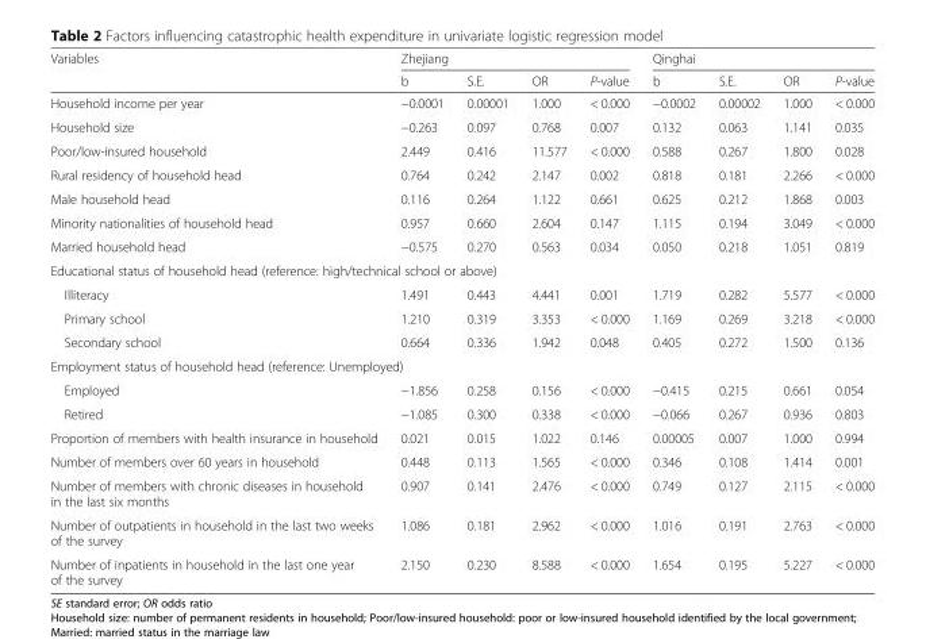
<table><thead><tr><td rowspan="2">Variables</td><td colspan="4">Zhejiang</td><td colspan="4">Qinghai</td></tr><tr><td>b</td><td>S.E.</td><td>OR</td><td>P-value</td><td>b</td><td>S.E.</td><td>OR</td><td>P-value</td></tr></thead><tbody><tr><td>Household income per year</td><td>−0.0001</td><td>0.00001</td><td>1.000</td><td>&lt; 0.000</td><td>−0.0002</td><td>0.00002</td><td>1.000</td><td>&lt; 0.000</td></tr><tr><td>Household size</td><td>−0.263</td><td>0.097</td><td>0.768</td><td>0.007</td><td>0.132</td><td>0.063</td><td>1.141</td><td>0.035</td></tr><tr><td>Poor/low-insured household</td><td>2.449</td><td>0.416</td><td>11.577</td><td>&lt; 0.000</td><td>0.588</td><td>0.267</td><td>1.800</td><td>0.028</td></tr><tr><td>Rural residency of household head</td><td>0.764</td><td>0.242</td><td>2.147</td><td>0.002</td><td>0.818</td><td>0.181</td><td>2.266</td><td>&lt; 0.000</td></tr><tr><td>Male household head</td><td>0.116</td><td>0.264</td><td>1.122</td><td>0.661</td><td>0.625</td><td>0.212</td><td>1.868</td><td>0.003</td></tr><tr><td>Minority nationalities of household head</td><td>0.957</td><td>0.660</td><td>2.604</td><td>0.147</td><td>1.115</td><td>0.194</td><td>3.049</td><td>&lt; 0.000</td></tr><tr><td>Married household head</td><td>−0.575</td><td>0.270</td><td>0.563</td><td>0.034</td><td>0.050</td><td>0.218</td><td>1.051</td><td>0.819</td></tr><tr><td colspan="9">Educational status of household head (reference: high/technical school or above)</td></tr><tr><td>Illiteracy</td><td>1.491</td><td>0.443</td><td>4.441</td><td>0.001</td><td>1.719</td><td>0.282</td><td>5.577</td><td>&lt; 0.000</td></tr><tr><td>Primary school</td><td>1.210</td><td>0.319</td><td>3.353</td><td>&lt; 0.000</td><td>1.169</td><td>0.269</td><td>3.218</td><td>&lt; 0.000</td></tr><tr><td>Secondary school</td><td>0.664</td><td>0.336</td><td>1.942</td><td>0.048</td><td>0.405</td><td>0.272</td><td>1.500</td><td>0.136</td></tr><tr><td colspan="9">Employment status of household head (reference: Unemployed)</td></tr><tr><td>Employed</td><td>−1.856</td><td>0.258</td><td>0.156</td><td>&lt; 0.000</td><td>−0.415</td><td>0.215</td><td>0.661</td><td>0.054</td></tr><tr><td>Retired</td><td>−1.085</td><td>0.300</td><td>0.338</td><td>&lt; 0.000</td><td>−0.066</td><td>0.267</td><td>0.936</td><td>0.803</td></tr><tr><td>Proportion of members with health insurance in household</td><td>0.021</td><td>0.015</td><td>1.022</td><td>0.146</td><td>0.00005</td><td>0.007</td><td>1.000</td><td>0.994</td></tr><tr><td>Number of members over 60 years in household</td><td>0.448</td><td>0.113</td><td>1.565</td><td>&lt; 0.000</td><td>0.346</td><td>0.108</td><td>1.414</td><td>0.001</td></tr><tr><td>Number of members with chronic diseases in household in the last six months</td><td>0.907</td><td>0.141</td><td>2.476</td><td>&lt; 0.000</td><td>0.749</td><td>0.127</td><td>2.115</td><td>&lt; 0.000</td></tr><tr><td>Number of outpatients in household in the last two weeks of the survey</td><td>1.086</td><td>0.181</td><td>2.962</td><td>&lt; 0.000</td><td>1.016</td><td>0.191</td><td>2.763</td><td>&lt; 0.000</td></tr><tr><td>Number of inpatients in household in the last one year of the survey</td><td>2.150</td><td>0.230</td><td>8.588</td><td>&lt; 0.000</td><td>1.654</td><td>0.195</td><td>5.227</td><td>&lt; 0.000</td></tr></tbody></table>